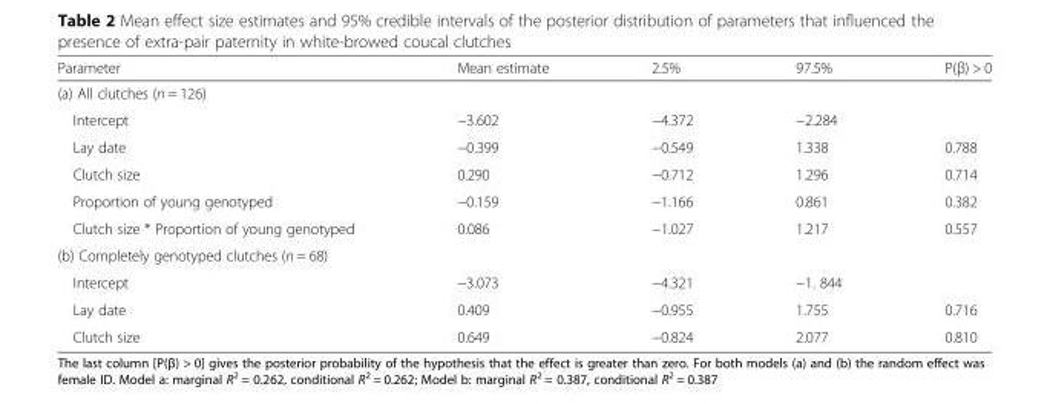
<table><thead><tr><td>Parameter</td><td>Mean estimate</td><td>2.5%</td><td>97.5%</td><td>P(β) &gt; 0</td></tr></thead><tbody><tr><td colspan="5">(a) All clutches (n = 126)</td></tr><tr><td>Intercept</td><td>−3.602</td><td>−4.372</td><td>−2.284</td><td></td></tr><tr><td>Lay date</td><td>−0.399</td><td>−0.549</td><td>1.338</td><td>0.788</td></tr><tr><td>Clutch size</td><td>0.290</td><td>−0.712</td><td>1.296</td><td>0.714</td></tr><tr><td>Proportion of young genotyped</td><td>−0.159</td><td>−1.166</td><td>0.861</td><td>0.382</td></tr><tr><td>Clutch size * Proportion of young genotyped</td><td>0.086</td><td>−1.027</td><td>1.217</td><td>0.557</td></tr><tr><td colspan="5">(b) Completely genotyped clutches (n = 68)</td></tr><tr><td>Intercept</td><td>−3.073</td><td>−4.321</td><td>−1. 844</td><td></td></tr><tr><td>Lay date</td><td>0.409</td><td>−0.955</td><td>1.755</td><td>0.716</td></tr><tr><td>Clutch size</td><td>0.649</td><td>−0.824</td><td>2.077</td><td>0.810</td></tr></tbody></table>